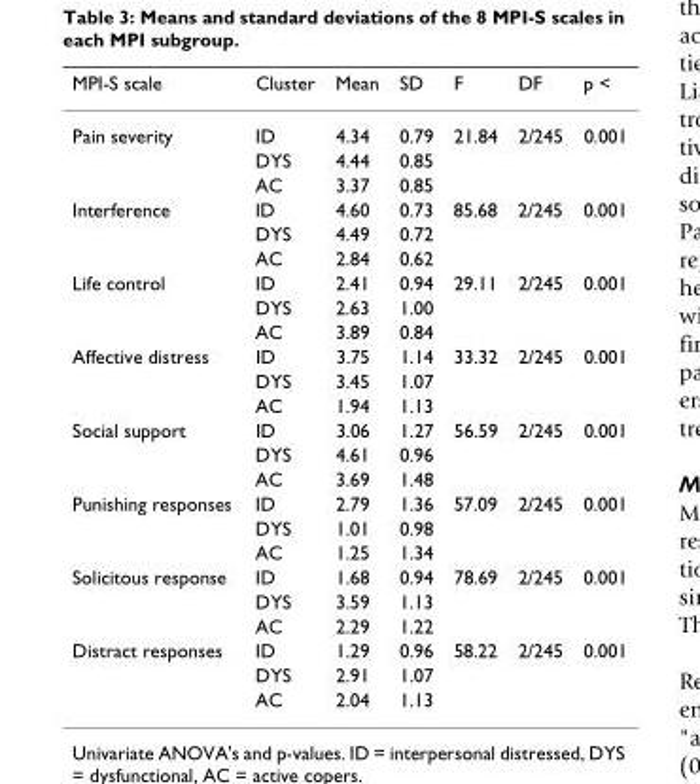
<table><thead><tr><td>MPI-S scale</td><td>Cluster</td><td>Mean</td><td>SD</td><td>F</td><td>DF</td><td>p &lt;</td></tr></thead><tbody><tr><td rowspan="3">Pain severity</td><td>ID</td><td>4.34</td><td>0.79</td><td>21.84</td><td>2/245</td><td>0.001</td></tr><tr><td>DYS</td><td>4.44</td><td>0.85</td><td></td><td></td><td></td></tr><tr><td>AC</td><td>3.37</td><td>0.85</td><td></td><td></td><td></td></tr><tr><td rowspan="3">Interference</td><td>ID</td><td>4.60</td><td>0.73</td><td>85.68</td><td>2/245</td><td>0.001</td></tr><tr><td>DYS</td><td>4.49</td><td>0.72</td><td></td><td></td><td></td></tr><tr><td>AC</td><td>2.84</td><td>0.62</td><td></td><td></td><td></td></tr><tr><td rowspan="3">Life control</td><td>ID</td><td>2.41</td><td>0.94</td><td>29.11</td><td>2/245</td><td>0.001</td></tr><tr><td>DYS</td><td>2.63</td><td>1.00</td><td></td><td></td><td></td></tr><tr><td>AC</td><td>3.89</td><td>0.84</td><td></td><td></td><td></td></tr><tr><td rowspan="3">Affective distress</td><td>ID</td><td>3.75</td><td>1.14</td><td>33.32</td><td>2/245</td><td>0.001</td></tr><tr><td>DYS</td><td>3.45</td><td>1.07</td><td></td><td></td><td></td></tr><tr><td>AC</td><td>1.94</td><td>1.13</td><td></td><td></td><td></td></tr><tr><td rowspan="3">Social support</td><td>ID</td><td>3.06</td><td>1.27</td><td>56.59</td><td>2/245</td><td>0.001</td></tr><tr><td>DYS</td><td>4.61</td><td>0.96</td><td></td><td></td><td></td></tr><tr><td>AC</td><td>3.69</td><td>1.48</td><td></td><td></td><td></td></tr><tr><td rowspan="3">Punishing responses</td><td>ID</td><td>2.79</td><td>1.36</td><td>57.09</td><td>2/245</td><td>0.001</td></tr><tr><td>DYS</td><td>1.01</td><td>0.98</td><td></td><td></td><td></td></tr><tr><td>AC</td><td>1.25</td><td>1.34</td><td></td><td></td><td></td></tr><tr><td rowspan="3">Solicitous response</td><td>ID</td><td>1.68</td><td>0.94</td><td>78.69</td><td>2/245</td><td>0.001</td></tr><tr><td>DYS</td><td>3.59</td><td>1.13</td><td></td><td></td><td></td></tr><tr><td>AC</td><td>2.29</td><td>1.22</td><td></td><td></td><td></td></tr><tr><td rowspan="3">Distract responses</td><td>ID</td><td>1.29</td><td>0.96</td><td>58.22</td><td>2/245</td><td>0.001</td></tr><tr><td>DYS</td><td>2.91</td><td>1.07</td><td></td><td></td><td></td></tr><tr><td>AC</td><td>2.04</td><td>1.13</td><td></td><td></td><td></td></tr></tbody></table>